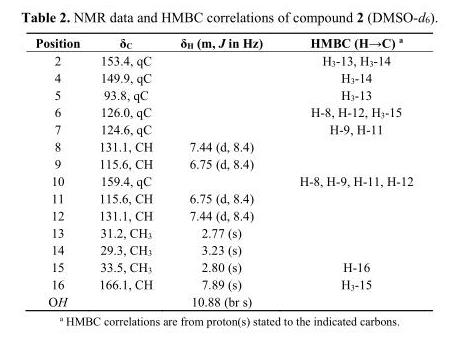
<table><thead><tr><td>Position</td><td>δ<sub>C</sub></td><td>δ<sub>H</sub> (m, J in Hz)</td><td>HMBC (H→C) <sup>a</sup></td></tr></thead><tbody><tr><td>2</td><td>153.4, qC</td><td></td><td>H<sub>3</sub>-13, H<sub>3</sub>-14</td></tr><tr><td>4</td><td>149.9, qC</td><td></td><td>H<sub>3</sub>-14</td></tr><tr><td>5</td><td>93.8, qC</td><td></td><td>H<sub>3</sub>-13</td></tr><tr><td>6</td><td>126.0, qC</td><td></td><td>H-8, H-12, H<sub>3</sub>-15</td></tr><tr><td>7</td><td>124.6, qC</td><td></td><td>H-9, H-11</td></tr><tr><td>8</td><td>131.1, CH</td><td>7.44 (d, 8.4)</td><td></td></tr><tr><td>9</td><td>115.6, CH</td><td>6.75 (d, 8.4)</td><td></td></tr><tr><td>10</td><td>159.4, qC</td><td></td><td>H-8, H-9, H-11, H-12</td></tr><tr><td>11</td><td>115.6, CH</td><td>6.75 (d, 8.4)</td><td></td></tr><tr><td>12</td><td>131.1, CH</td><td>7.44 (d, 8.4)</td><td></td></tr><tr><td>13</td><td>31.2, CH<sub>3</sub></td><td>2.77 (s)</td><td></td></tr><tr><td>14</td><td>29.3, CH<sub>3</sub></td><td>3.23 (s)</td><td></td></tr><tr><td>15</td><td>33.5, CH<sub>3</sub></td><td>2.80 (s)</td><td>H-16</td></tr><tr><td>16</td><td>166.1, CH</td><td>7.89 (s)</td><td>H<sub>3</sub>-15</td></tr><tr><td>OH</td><td></td><td>10.88 (br s)</td><td></td></tr></tbody></table>